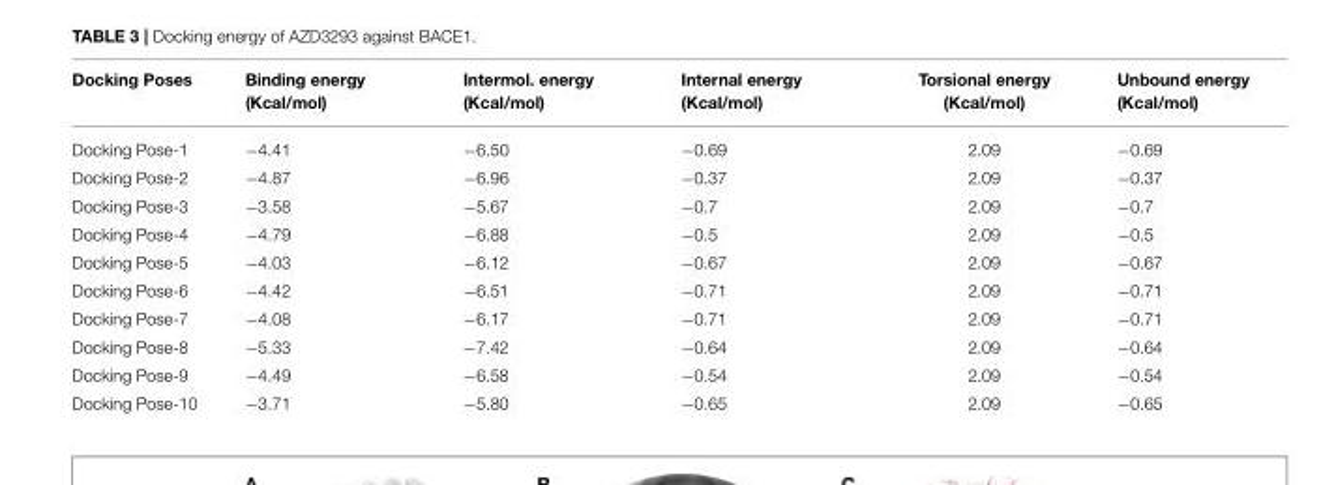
<table><thead><tr><td>Docking Poses</td><td>Binding energy (Kcal/mol)</td><td>Intermol. energy (Kcal/mol)</td><td>Internal energy (Kcal/mol)</td><td>Torsional energy (Kcal/mol)</td><td>Unbound energy (Kcal/mol)</td></tr></thead><tbody><tr><td>Docking Pose-1</td><td>−4.41</td><td>−6.50</td><td>−0.69</td><td>2.09</td><td>−0.69</td></tr><tr><td>Docking Pose-2</td><td>−4.87</td><td>−6.96</td><td>−0.37</td><td>2.09</td><td>−0.37</td></tr><tr><td>Docking Pose-3</td><td>−3.58</td><td>−5.67</td><td>−0.7</td><td>2.09</td><td>−0.7</td></tr><tr><td>Docking Pose-4</td><td>−4.79</td><td>−6.88</td><td>−0.5</td><td>2.09</td><td>−0.5</td></tr><tr><td>Docking Pose-5</td><td>−4.03</td><td>−6.12</td><td>−0.67</td><td>2.09</td><td>−0.67</td></tr><tr><td>Docking Pose-6</td><td>−4.42</td><td>−6.51</td><td>−0.71</td><td>2.09</td><td>−0.71</td></tr><tr><td>Docking Pose-7</td><td>−4.08</td><td>−6.17</td><td>−0.71</td><td>2.09</td><td>−0.71</td></tr><tr><td>Docking Pose-8</td><td>−5.33</td><td>−7.42</td><td>−0.64</td><td>2.09</td><td>−0.64</td></tr><tr><td>Docking Pose-9</td><td>−4.49</td><td>−6.58</td><td>−0.54</td><td>2.09</td><td>−0.54</td></tr><tr><td>Docking Pose-10</td><td>−3.71</td><td>−5.80</td><td>−0.65</td><td>2.09</td><td>−0.65</td></tr></tbody></table>